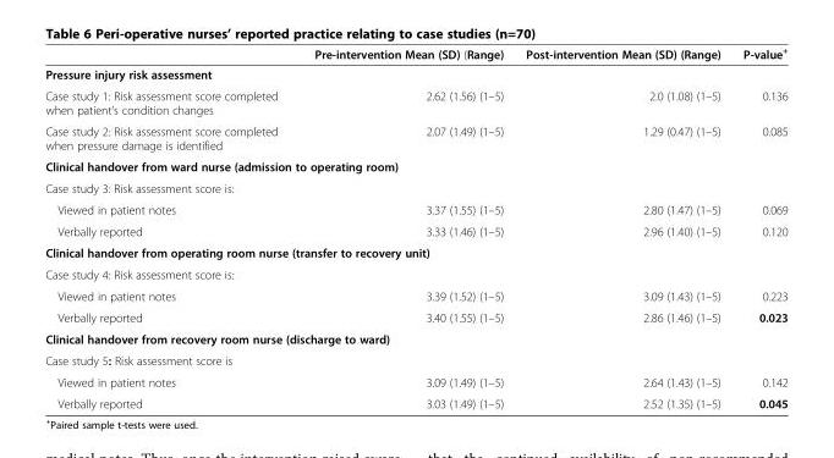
<table><thead><tr><td></td><td>Pre-intervention Mean (SD) (Range)</td><td>Post-intervention Mean (SD) (Range)</td><td>P-value<sup>+</sup></td></tr></thead><tbody><tr><td colspan="4">Pressure injury risk assessment</td></tr><tr><td>Case study 1: Risk assessment score completed when patient’s condition changes</td><td>2.62 (1.56) (1–5)</td><td>2.0 (1.08) (1–5)</td><td>0.136</td></tr><tr><td>Case study 2: Risk assessment score completed when pressure damage is identified</td><td>2.07 (1.49) (1–5)</td><td>1.29 (0.47) (1–5)</td><td>0.085</td></tr><tr><td colspan="4">Clinical handover from ward nurse (admission to operating room)</td></tr><tr><td colspan="4">Case study 3: Risk assessment score is:</td></tr><tr><td>Viewed in patient notes</td><td>3.37 (1.55) (1–5)</td><td>2.80 (1.47) (1–5)</td><td>0.069</td></tr><tr><td>Verbally reported</td><td>3.33 (1.46) (1–5)</td><td>2.96 (1.40) (1–5)</td><td>0.120</td></tr><tr><td colspan="4">Clinical handover from operating room nurse (transfer to recovery unit)</td></tr><tr><td colspan="4">Case study 4: Risk assessment score is:</td></tr><tr><td>Viewed in patient notes</td><td>3.39 (1.52) (1–5)</td><td>3.09 (1.43) (1–5)</td><td>0.223</td></tr><tr><td>Verbally reported</td><td>3.40 (1.55) (1–5)</td><td>2.86 (1.46) (1–5)</td><td>0.023</td></tr><tr><td colspan="4">Clinical handover from recovery room nurse (discharge to ward)</td></tr><tr><td colspan="4">Case study 5: Risk assessment score is</td></tr><tr><td>Viewed in patient notes</td><td>3.09 (1.49) (1–5)</td><td>2.64 (1.43) (1–5)</td><td>0.142</td></tr><tr><td>Verbally reported</td><td>3.03 (1.49) (1–5)</td><td>2.52 (1.35) (1–5)</td><td>0.045</td></tr></tbody></table>